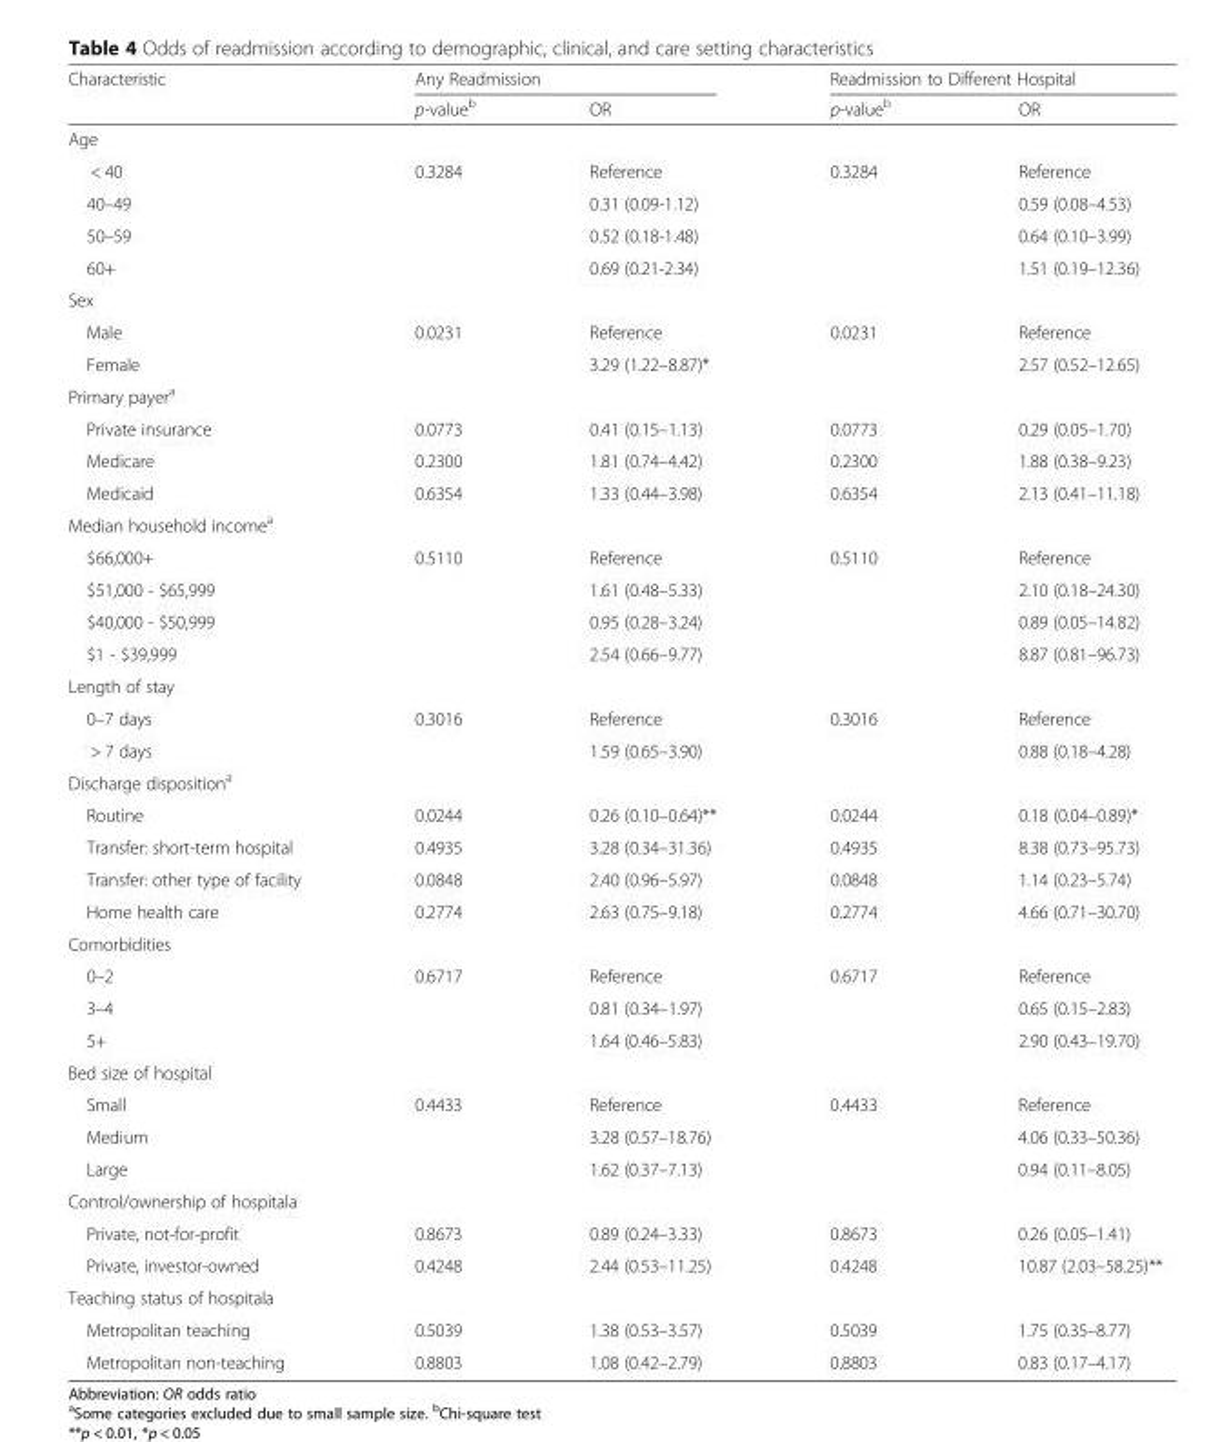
<table><thead><tr><td rowspan="2">Characteristic</td><td colspan="2">Any Readmission</td><td colspan="2">Readmission to Different Hospital</td></tr><tr><td>p-value<sup>b</sup></td><td>OR</td><td>p-value<sup>b</sup></td><td>OR</td></tr></thead><tbody><tr><td colspan="5">Age</td></tr><tr><td>&lt; 40</td><td>0.3284</td><td>Reference</td><td>0.3284</td><td>Reference</td></tr><tr><td>40–49</td><td></td><td>0.31 (0.09-1.12)</td><td></td><td>0.59 (0.08–4.53)</td></tr><tr><td>50–59</td><td></td><td>0.52 (0.18-1.48)</td><td></td><td>0.64 (0.10–3.99)</td></tr><tr><td>60+</td><td></td><td>0.69 (0.21-2.34)</td><td></td><td>1.51 (0.19–12.36)</td></tr><tr><td colspan="5">Sex</td></tr><tr><td>Male</td><td>0.0231</td><td>Reference</td><td>0.0231</td><td>Reference</td></tr><tr><td>Female</td><td></td><td>3.29 (1.22–8.87)*</td><td></td><td>2.57 (0.52–12.65)</td></tr><tr><td colspan="5">Primary payer<sup>a</sup></td></tr><tr><td>Private insurance</td><td>0.0773</td><td>0.41 (0.15–1.13)</td><td>0.0773</td><td>0.29 (0.05–1.70)</td></tr><tr><td>Medicare</td><td>0.2300</td><td>1.81 (0.74–4.42)</td><td>0.2300</td><td>1.88 (0.38–9.23)</td></tr><tr><td>Medicaid</td><td>0.6354</td><td>1.33 (0.44–3.98)</td><td>0.6354</td><td>2.13 (0.41–11.18)</td></tr><tr><td colspan="5">Median household income<sup>a</sup></td></tr><tr><td>$66,000+</td><td>0.5110</td><td>Reference</td><td>0.5110</td><td>Reference</td></tr><tr><td>$51,000 - $65,999</td><td></td><td>1.61 (0.48–5.33)</td><td></td><td>2.10 (0.18–24.30)</td></tr><tr><td>$40,000 - $50,999</td><td></td><td>0.95 (0.28–3.24)</td><td></td><td>0.89 (0.05–14.82)</td></tr><tr><td>$1 - $39,999</td><td></td><td>2.54 (0.66–9.77)</td><td></td><td>8.87 (0.81–96.73)</td></tr><tr><td colspan="5">Length of stay</td></tr><tr><td>0–7 days</td><td>0.3016</td><td>Reference</td><td>0.3016</td><td>Reference</td></tr><tr><td>&gt; 7 days</td><td></td><td>1.59 (0.65–3.90)</td><td></td><td>0.88 (0.18–4.28)</td></tr><tr><td colspan="5">Discharge disposition<sup>a</sup></td></tr><tr><td>Routine</td><td>0.0244</td><td>0.26 (0.10–0.64)**</td><td>0.0244</td><td>0.18 (0.04–0.89)*</td></tr><tr><td>Transfer: short-term hospital</td><td>0.4935</td><td>3.28 (0.34–31.36)</td><td>0.4935</td><td>8.38 (0.73–95.73)</td></tr><tr><td>Transfer: other type of facility</td><td>0.0848</td><td>2.40 (0.96–5.97)</td><td>0.0848</td><td>1.14 (0.23–5.74)</td></tr><tr><td>Home health care</td><td>0.2774</td><td>2.63 (0.75–9.18)</td><td>0.2774</td><td>4.66 (0.71–30.70)</td></tr><tr><td colspan="5">Comorbidities</td></tr><tr><td>0–2</td><td>0.6717</td><td>Reference</td><td>0.6717</td><td>Reference</td></tr><tr><td>3–4</td><td></td><td>0.81 (0.34–1.97)</td><td></td><td>0.65 (0.15–2.83)</td></tr><tr><td>5+</td><td></td><td>1.64 (0.46–5.83)</td><td></td><td>2.90 (0.43–19.70)</td></tr><tr><td colspan="5">Bed size of hospital</td></tr><tr><td>Small</td><td>0.4433</td><td>Reference</td><td>0.4433</td><td>Reference</td></tr><tr><td>Medium</td><td></td><td>3.28 (0.57–18.76)</td><td></td><td>4.06 (0.33–50.36)</td></tr><tr><td>Large</td><td></td><td>1.62 (0.37–7.13)</td><td></td><td>0.94 (0.11–8.05)</td></tr><tr><td colspan="5">Control/ownership of hospitala</td></tr><tr><td>Private, not-for-profit</td><td>0.8673</td><td>0.89 (0.24–3.33)</td><td>0.8673</td><td>0.26 (0.05–1.41)</td></tr><tr><td>Private, investor-owned</td><td>0.4248</td><td>2.44 (0.53–11.25)</td><td>0.4248</td><td>10.87 (2.03–58.25)**</td></tr><tr><td colspan="5">Teaching status of hospitala</td></tr><tr><td>Metropolitan teaching</td><td>0.5039</td><td>1.38 (0.53–3.57)</td><td>0.5039</td><td>1.75 (0.35–8.77)</td></tr><tr><td>Metropolitan non-teaching</td><td>0.8803</td><td>1.08 (0.42–2.79)</td><td>0.8803</td><td>0.83 (0.17–4.17)</td></tr></tbody></table>